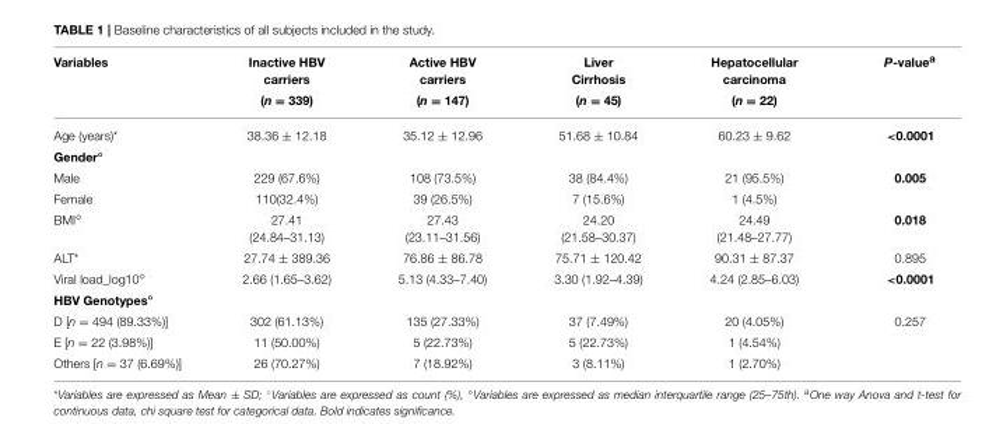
<table><thead><tr><td rowspan="2">Variables</td><td rowspan="2">Inactive HBV carriers (n = 339)</td><td rowspan="2">Active HBV carriers (n = 147)</td><td rowspan="2">Liver Cirrhosis (n = 45)</td><td rowspan="2">Hepatocellular carcinoma (n = 22)</td><td rowspan="2">P-value<sup>a</sup></td></tr><tr></tr></thead><tbody><tr><td>Age (years)*</td><td>38.36 ± 12.18</td><td>35.12 ± 12.96</td><td>51.68 ± 10.84</td><td>60.23 ± 9.62</td><td>&lt;0.0001</td></tr><tr><td colspan="6">Gender◦</td></tr><tr><td>Male</td><td>229 (67.6%)</td><td>108 (73.5%)</td><td>38 (84.4%)</td><td>21 (95.5%)</td><td>0.005</td></tr><tr><td>Female</td><td>110(32.4%)</td><td>39 (26.5%)</td><td>7 (15.6%)</td><td>1 (4.5%)</td><td></td></tr><tr><td>BMI⋄</td><td>27.41 (24.84–31.13)</td><td>27.43 (23.11–31.56)</td><td>24.20 (21.58–30.37)</td><td>24.49 (21.48–27.77)</td><td>0.018</td></tr><tr><td>ALT*</td><td>27.74 ± 389.36</td><td>76.86 ± 86.78</td><td>75.71 ± 120.42</td><td>90.31 ± 87.37</td><td>0.895</td></tr><tr><td>Viral load_log10⋄</td><td>2.66 (1.65–3.62)</td><td>5.13 (4.33–7.40)</td><td>3.30 (1.92–4.39)</td><td>4.24 (2.85–6.03)</td><td>&lt;0.0001</td></tr><tr><td colspan="6">HBV Genotypes◦</td></tr><tr><td>D [n = 494 (89.33%)]</td><td>302 (61.13%)</td><td>135 (27.33%)</td><td>37 (7.49%)</td><td>20 (4.05%)</td><td>0.257</td></tr><tr><td>E [n = 22 (3.98%)]</td><td>11 (50.00%)</td><td>5 (22.73%)</td><td>5 (22.73%)</td><td>1 (4.54%)</td><td></td></tr><tr><td>Others [n = 37 (6.69%)]</td><td>26 (70.27%)</td><td>7 (18.92%)</td><td>3 (8.11%)</td><td>1 (2.70%)</td><td></td></tr></tbody></table>